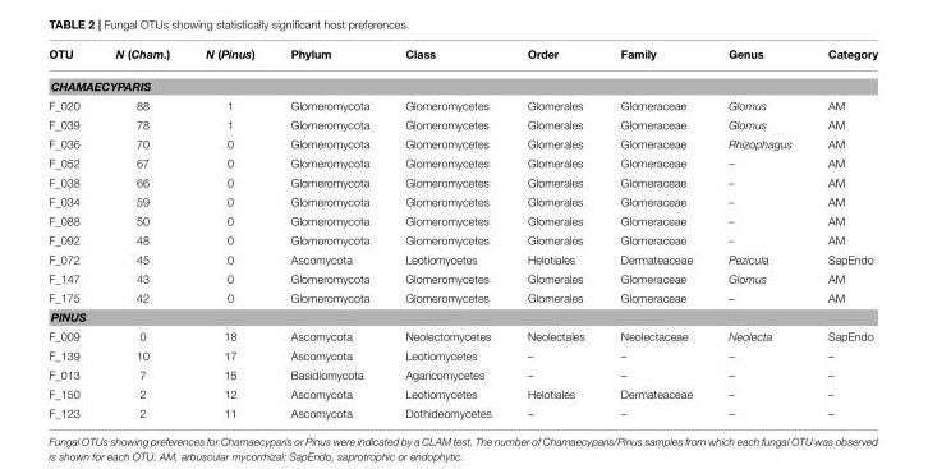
<table><thead><tr><td>OTU</td><td>N (Cham.)</td><td>N (Pinus)</td><td>Phylum</td><td>Class</td><td>Order</td><td>Family</td><td>Genus</td><td>Category</td></tr></thead><tbody><tr><td colspan="9">CHAMAECYPARIS</td></tr><tr><td>F_020</td><td>88</td><td>1</td><td>Glomeromycota</td><td>Glomeromycetes</td><td>Glomerales</td><td>Glomeraceae</td><td>Glomus</td><td>AM</td></tr><tr><td>F_039</td><td>78</td><td>1</td><td>Glomeromycota</td><td>Glomeromycetes</td><td>Glomerales</td><td>Glomeraceae</td><td>Glomus</td><td>AM</td></tr><tr><td>F_036</td><td>70</td><td>0</td><td>Glomeromycota</td><td>Glomeromycetes</td><td>Glomerales</td><td>Glomeraceae</td><td>Rhizophagus</td><td>AM</td></tr><tr><td>F_052</td><td>67</td><td>0</td><td>Glomeromycota</td><td>Glomeromycetes</td><td>Glomerales</td><td>Glomeraceae</td><td>–</td><td>AM</td></tr><tr><td>F_038</td><td>66</td><td>0</td><td>Glomeromycota</td><td>Glomeromycetes</td><td>Glomerales</td><td>Glomeraceae</td><td>–</td><td>AM</td></tr><tr><td>F_034</td><td>59</td><td>0</td><td>Glomeromycota</td><td>Glomeromycetes</td><td>Glomerales</td><td>Glomeraceae</td><td>–</td><td>AM</td></tr><tr><td>F_088</td><td>50</td><td>0</td><td>Glomeromycota</td><td>Glomeromycetes</td><td>Glomerales</td><td>Glomeraceae</td><td>–</td><td>AM</td></tr><tr><td>F_092</td><td>48</td><td>0</td><td>Glomeromycota</td><td>Glomeromycetes</td><td>Glomerales</td><td>Glomeraceae</td><td>–</td><td>AM</td></tr><tr><td>F_072</td><td>45</td><td>0</td><td>Ascomycota</td><td>Leotiomycetes</td><td>Helotiales</td><td>Dermateaceae</td><td>Pezicula</td><td>SapEndo</td></tr><tr><td>F_147</td><td>43</td><td>0</td><td>Glomeromycota</td><td>Glomeromycetes</td><td>Glomerales</td><td>Glomeraceae</td><td>Glomus</td><td>AM</td></tr><tr><td>F_175</td><td>42</td><td>0</td><td>Glomeromycota</td><td>Glomeromycetes</td><td>Glomerales</td><td>Glomeraceae</td><td>–</td><td>AM</td></tr><tr><td colspan="9">PINUS</td></tr><tr><td>F_009</td><td>0</td><td>18</td><td>Ascomycota</td><td>Neolectomycetes</td><td>Neolectales</td><td>Neolectaceae</td><td>Neolecta</td><td>SapEndo</td></tr><tr><td>F_139</td><td>10</td><td>17</td><td>Ascomycota</td><td>Leotiomycetes</td><td>–</td><td>–</td><td>–</td><td>–</td></tr><tr><td>F_013</td><td>7</td><td>15</td><td>Basidiomycota</td><td>Agaricomycetes</td><td>–</td><td>–</td><td>–</td><td>–</td></tr><tr><td>F_150</td><td>2</td><td>12</td><td>Ascomycota</td><td>Leotiomycetes</td><td>Helotiales</td><td>Dermateaceae</td><td>–</td><td>–</td></tr><tr><td>F_123</td><td>2</td><td>11</td><td>Ascomycota</td><td>Dothideomycetes</td><td>–</td><td>–</td><td>–</td><td>–</td></tr></tbody></table>